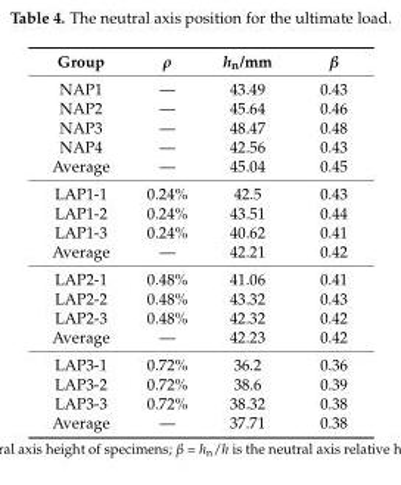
<table><thead><tr><td>Group</td><td>ρ</td><td>h<sub>n</sub>/mm</td><td>β</td></tr></thead><tbody><tr><td>NAP1</td><td>—</td><td>43.49</td><td>0.43</td></tr><tr><td>NAP2</td><td>—</td><td>45.64</td><td>0.46</td></tr><tr><td>NAP3</td><td>—</td><td>48.47</td><td>0.48</td></tr><tr><td>NAP4</td><td>—</td><td>42.56</td><td>0.43</td></tr><tr><td>Average</td><td>—</td><td>45.04</td><td>0.45</td></tr><tr><td>LAP1-1</td><td>0.24%</td><td>42.5</td><td>0.43</td></tr><tr><td>LAP1-2</td><td>0.24%</td><td>43.51</td><td>0.44</td></tr><tr><td>LAP1-3</td><td>0.24%</td><td>40.62</td><td>0.41</td></tr><tr><td>Average</td><td>—</td><td>42.21</td><td>0.42</td></tr><tr><td>LAP2-1</td><td>0.48%</td><td>41.06</td><td>0.41</td></tr><tr><td>LAP2-2</td><td>0.48%</td><td>43.32</td><td>0.43</td></tr><tr><td>LAP2-3</td><td>0.48%</td><td>42.32</td><td>0.42</td></tr><tr><td>Average</td><td>—</td><td>42.23</td><td>0.42</td></tr><tr><td>LAP3-1</td><td>0.72%</td><td>36.2</td><td>0.36</td></tr><tr><td>LAP3-2</td><td>0.72%</td><td>38.6</td><td>0.39</td></tr><tr><td>LAP3-3</td><td>0.72%</td><td>38.32</td><td>0.38</td></tr><tr><td>Average</td><td>—</td><td>37.71</td><td>0.38</td></tr></tbody></table>